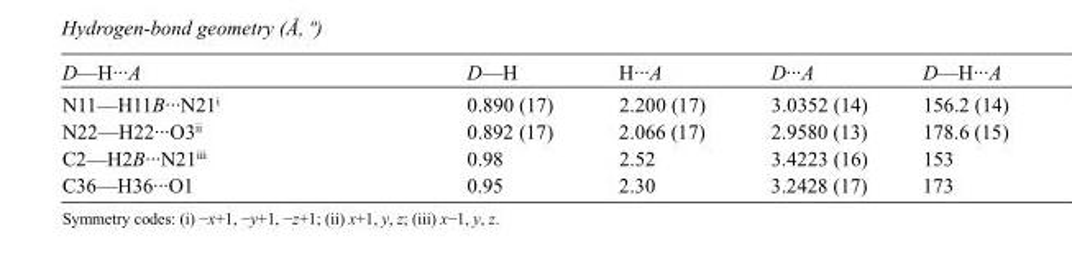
<table><tbody><tr><td>D—H···A</td><td>D—H</td><td>H···A</td><td>D···A</td><td>D—H···A</td></tr><tr><td>N11—H11B···N21<sup>i</sup></td><td>0.890 (17)</td><td>2.200 (17)</td><td>3.0352 (14)</td><td>156.2 (14)</td></tr><tr><td>N22—H22···O3<sup>ii</sup></td><td>0.892 (17)</td><td>2.066 (17)</td><td>2.9580 (13)</td><td>178.6 (15)</td></tr><tr><td>C2—H2B···N21<sup>iii</sup></td><td>0.98</td><td>2.52</td><td>3.4223 (16)</td><td>153</td></tr><tr><td>C36—H36···O1</td><td>0.95</td><td>2.30</td><td>3.2428 (17)</td><td>173</td></tr></tbody></table>